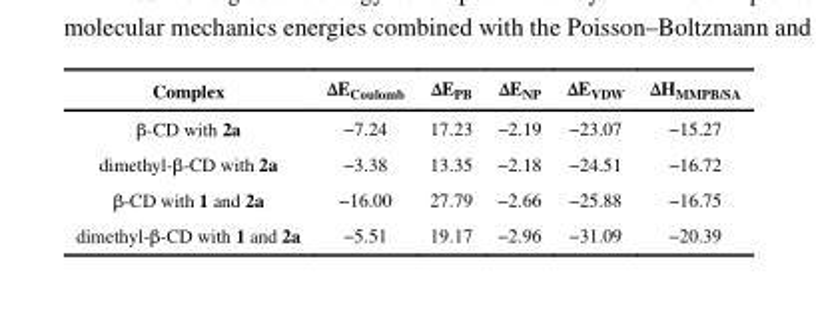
<table><thead><tr><td>Complex</td><td>ΔE<sub>Coulomb</sub></td><td>ΔE<sub>PB</sub></td><td>ΔE<sub>NP</sub></td><td>ΔE<sub>VDW</sub></td><td>ΔH<sub>MMPB/SA</sub></td></tr></thead><tbody><tr><td>β-CD with 2a</td><td>−7.24</td><td>17.23</td><td>−2.19</td><td>−23.07</td><td>−15.27</td></tr><tr><td>dimethyl-β-CD with 2a</td><td>−3.38</td><td>13.35</td><td>−2.18</td><td>−24.51</td><td>−16.72</td></tr><tr><td>β-CD with 1 and 2a</td><td>−16.00</td><td>27.79</td><td>−2.66</td><td>−25.88</td><td>−16.75</td></tr><tr><td>dimethyl-β-CD with 1 and 2a</td><td>−5.51</td><td>19.17</td><td>−2.96</td><td>−31.09</td><td>−20.39</td></tr></tbody></table>